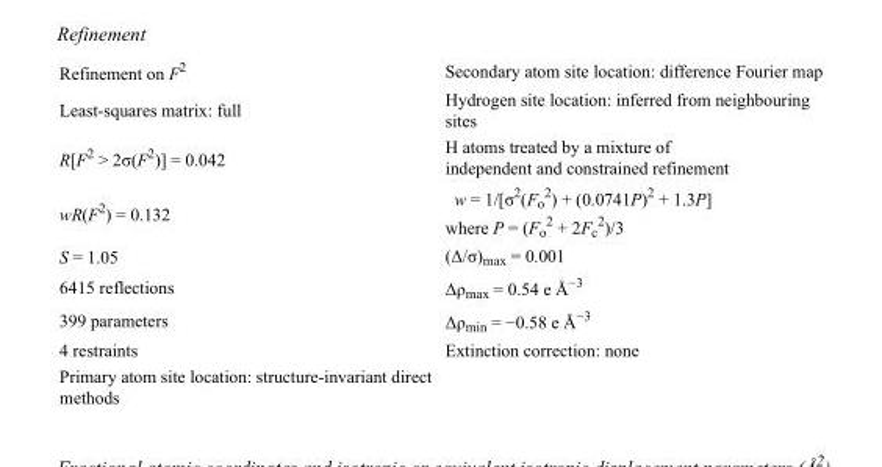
<table><tbody><tr><td>Refinement on F<sup>2</sup></td><td>Secondary atom site location: difference Fourier map</td></tr><tr><td>Least-squares matrix: full</td><td>Hydrogen site location: inferred from neighbouring sites</td></tr><tr><td>R[F<sup>2</sup> &gt; 2σ(F<sup>2</sup>)] = 0.042</td><td>H atoms treated by a mixture of independent and constrained refinement</td></tr><tr><td>wR(F<sup>2</sup>) = 0.132</td><td>w = 1/[σ<sup>2</sup>(F<sub>o</sub> <sup>2</sup>) + (0.0741P)<sup>2</sup> + 1.3P] where P = (F<sub>o</sub> <sup>2</sup> + 2F<sub>c</sub> <sup>2</sup>)/3</td></tr><tr><td>S = 1.05</td><td>(Δ/σ)<sub>max</sub> = 0.001</td></tr><tr><td>6415 reflections</td><td>Δρ<sub>max</sub> = 0.54 e Å<sup>−3</sup></td></tr><tr><td>399 parameters</td><td>Δρ<sub>min</sub> = −0.58 e Å<sup>−3</sup></td></tr><tr><td>4 restraints</td><td>Extinction correction: none</td></tr><tr><td>Primary atom site location: structure-invariant direct methods</td><td></td></tr></tbody></table>